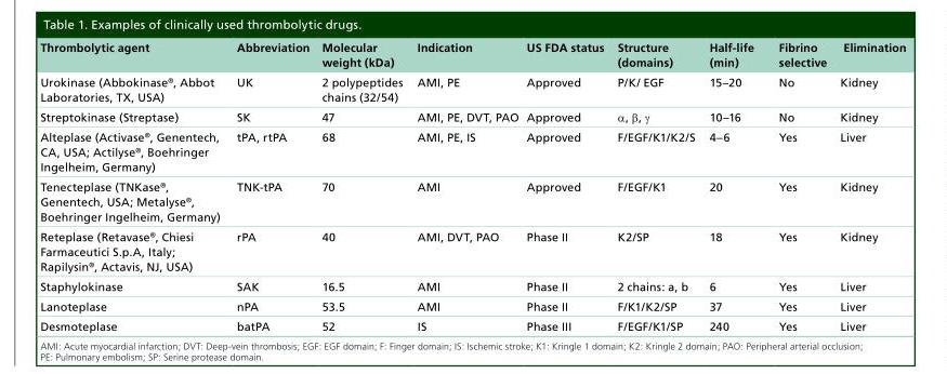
<table><thead><tr><td>Thrombolytic agent</td><td>Abbreviation</td><td>Molecular weight (kDa)</td><td>Indication</td><td>US FDA status</td><td>Structure (domains)</td><td>Half-life (min)</td><td>Fibrino selective</td><td>Elimination</td></tr></thead><tbody><tr><td>Urokinase (Abbokinase<sup>®</sup>, Abbot Laboratories, TX, USA)</td><td>UK</td><td>2 polypeptides chains (32/54)</td><td>AMI, PE</td><td>Approved</td><td>P/K/ EGF</td><td>15–20</td><td>No</td><td>Kidney</td></tr><tr><td>Streptokinase (Streptase)</td><td>SK</td><td>47</td><td>AMI, PE, DVT, PAO</td><td>Approved</td><td>α, β, γ</td><td>10–16</td><td>No</td><td>Kidney</td></tr><tr><td>Alteplase (Activase<sup>®</sup>, Genentech, CA, USA; Actilyse<sup>®</sup>, Boehringer Ingelheim, Germany)</td><td>tPA, rtPA</td><td>68</td><td>AMI, PE, IS</td><td>Approved</td><td>F/EGF/K1/K2/S</td><td>4–6</td><td>Yes</td><td>Liver</td></tr><tr><td>Tenecteplase (TNKase<sup>®</sup>, Genentech, USA; Metalyse<sup>®</sup>, Boehringer Ingelheim, Germany)</td><td>TNK-tPA</td><td>70</td><td>AMI</td><td>Approved</td><td>F/EGF/K1</td><td>20</td><td>Yes</td><td>Kidney</td></tr><tr><td>Reteplase (Retavase<sup>®</sup>, Chiesi Farmaceutici S.p.A, Italy; Rapilysin<sup>®</sup>, Actavis, NJ, USA)</td><td>rPA</td><td>40</td><td>AMI, DVT, PAO</td><td>Phase II</td><td>K2/SP</td><td>18</td><td>Yes</td><td>Kidney</td></tr><tr><td>Staphylokinase</td><td>SAK</td><td>16.5</td><td>AMI</td><td>Phase II</td><td>2 chains: a, b</td><td>6</td><td>Yes</td><td>Liver</td></tr><tr><td>Lanoteplase</td><td>nPA</td><td>53.5</td><td>AMI</td><td>Phase II</td><td>F/K1/K2/SP</td><td>37</td><td>Yes</td><td>Liver</td></tr><tr><td>Desmoteplase</td><td>batPA</td><td>52</td><td>IS</td><td>Phase III</td><td>F/EGF/K1/SP</td><td>240</td><td>Yes</td><td>Liver</td></tr></tbody></table>